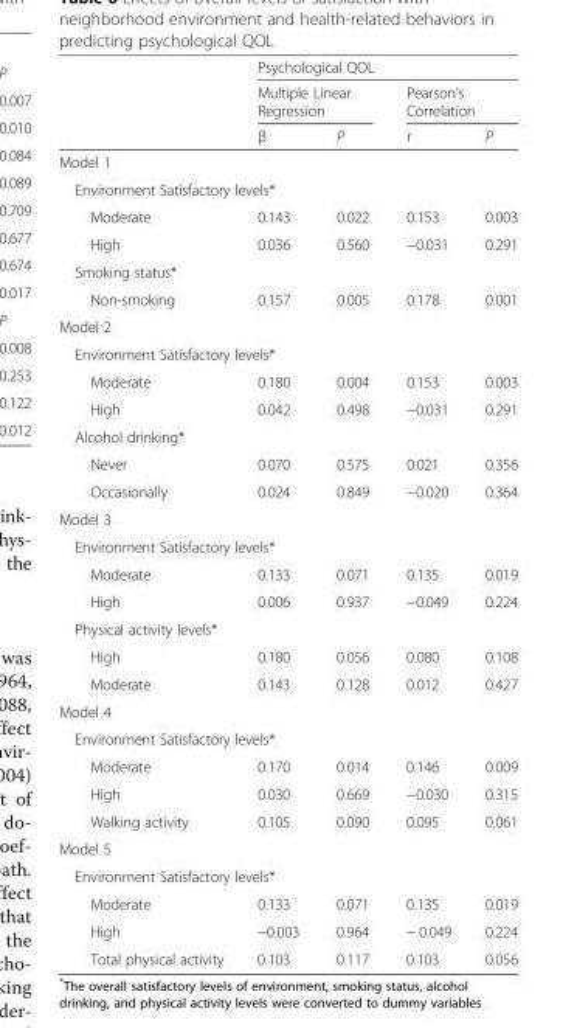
<table><thead><tr><td rowspan="3"></td><td colspan="4">Psychological QOL</td></tr><tr><td colspan="2">Multiple Linear Regression</td><td colspan="2">Pearson’s Correlation</td></tr><tr><td>β</td><td>P</td><td>r</td><td>P</td></tr></thead><tbody><tr><td colspan="5">Model 1</td></tr><tr><td colspan="5">Environment Satisfactory levels*</td></tr><tr><td>Moderate</td><td>0.143</td><td>0.022</td><td>0.153</td><td>0.003</td></tr><tr><td>High</td><td>0.036</td><td>0.560</td><td>−0.031</td><td>0.291</td></tr><tr><td colspan="5">Smoking status*</td></tr><tr><td>Non-smoking</td><td>0.157</td><td>0.005</td><td>0.178</td><td>0.001</td></tr><tr><td colspan="5">Model 2</td></tr><tr><td colspan="5">Environment Satisfactory levels*</td></tr><tr><td>Moderate</td><td>0.180</td><td>0.004</td><td>0.153</td><td>0.003</td></tr><tr><td>High</td><td>0.042</td><td>0.498</td><td>−0.031</td><td>0.291</td></tr><tr><td colspan="5">Alcohol drinking*</td></tr><tr><td>Never</td><td>0.070</td><td>0.575</td><td>0.021</td><td>0.356</td></tr><tr><td>Occasionally</td><td>0.024</td><td>0.849</td><td>−0.020</td><td>0.364</td></tr><tr><td colspan="5">Model 3</td></tr><tr><td colspan="5">Environment Satisfactory levels*</td></tr><tr><td>Moderate</td><td>0.133</td><td>0.071</td><td>0.135</td><td>0.019</td></tr><tr><td>High</td><td>0.006</td><td>0.937</td><td>−0.049</td><td>0.224</td></tr><tr><td colspan="5">Physical activity levels*</td></tr><tr><td>High</td><td>0.180</td><td>0.056</td><td>0.080</td><td>0.108</td></tr><tr><td>Moderate</td><td>0.143</td><td>0.128</td><td>0.012</td><td>0.427</td></tr><tr><td colspan="5">Model 4</td></tr><tr><td colspan="5">Environment Satisfactory levels*</td></tr><tr><td>Moderate</td><td>0.170</td><td>0.014</td><td>0.146</td><td>0.009</td></tr><tr><td>High</td><td>0.030</td><td>0.669</td><td>−0.030</td><td>0.315</td></tr><tr><td>Walking activity</td><td>0.105</td><td>0.090</td><td>0.095</td><td>0.061</td></tr><tr><td colspan="5">Model 5</td></tr><tr><td colspan="5">Environment Satisfactory levels*</td></tr><tr><td>Moderate</td><td>0.133</td><td>0.071</td><td>0.135</td><td>0.019</td></tr><tr><td>High</td><td>−0.003</td><td>0.964</td><td>− 0.049</td><td>0.224</td></tr><tr><td>Total physical activity</td><td>0.103</td><td>0.117</td><td>0.103</td><td>0.056</td></tr></tbody></table>